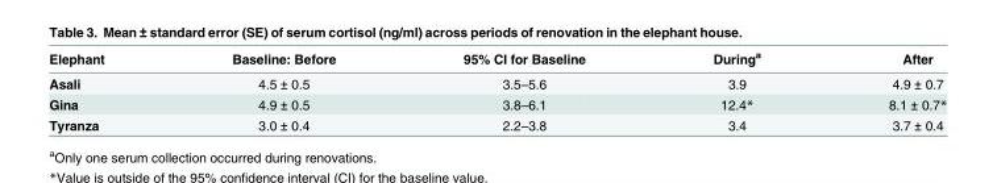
<table><thead><tr><td>Elephant</td><td>Baseline: Before</td><td>95% CI for Baseline</td><td>During<sup>a</sup></td><td>After</td></tr></thead><tbody><tr><td>Asali</td><td>4.5 ± 0.5</td><td>3.5–5.6</td><td>3.9</td><td>4.9 ± 0.7</td></tr><tr><td>Gina</td><td>4.9 ± 0.5</td><td>3.8–6.1</td><td>12.4*</td><td>8.1 ± 0.7*</td></tr><tr><td>Tyranza</td><td>3.0 ± 0.4</td><td>2.2–3.8</td><td>3.4</td><td>3.7 ± 0.4</td></tr></tbody></table>